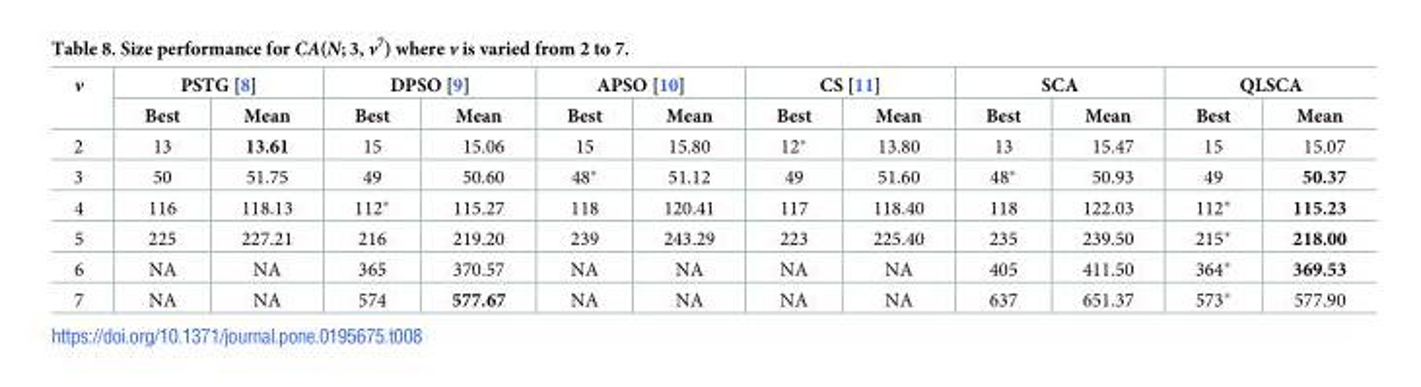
<table><thead><tr><td rowspan="2">v</td><td colspan="2">PSTG [8]</td><td colspan="2">DPSO [9]</td><td colspan="2">APSO [10]</td><td colspan="2">CS [11]</td><td colspan="2">SCA</td><td colspan="2">QLSCA</td></tr><tr><td>Best</td><td>Mean</td><td>Best</td><td>Mean</td><td>Best</td><td>Mean</td><td>Best</td><td>Mean</td><td>Best</td><td>Mean</td><td>Best</td><td>Mean</td></tr></thead><tbody><tr><td>2</td><td>13</td><td>13.61</td><td>15</td><td>15.06</td><td>15</td><td>15.80</td><td>12*</td><td>13.80</td><td>13</td><td>15.47</td><td>15</td><td>15.07</td></tr><tr><td>3</td><td>50</td><td>51.75</td><td>49</td><td>50.60</td><td>48*</td><td>51.12</td><td>49</td><td>51.60</td><td>48*</td><td>50.93</td><td>49</td><td>50.37</td></tr><tr><td>4</td><td>116</td><td>118.13</td><td>112*</td><td>115.27</td><td>118</td><td>120.41</td><td>117</td><td>118.40</td><td>118</td><td>122.03</td><td>112*</td><td>115.23</td></tr><tr><td>5</td><td>225</td><td>227.21</td><td>216</td><td>219.20</td><td>239</td><td>243.29</td><td>223</td><td>225.40</td><td>235</td><td>239.50</td><td>215*</td><td>218.00</td></tr><tr><td>6</td><td>NA</td><td>NA</td><td>365</td><td>370.57</td><td>NA</td><td>NA</td><td>NA</td><td>NA</td><td>405</td><td>411.50</td><td>364*</td><td>369.53</td></tr><tr><td>7</td><td>NA</td><td>NA</td><td>574</td><td>577.67</td><td>NA</td><td>NA</td><td>NA</td><td>NA</td><td>637</td><td>651.37</td><td>573*</td><td>577.90</td></tr></tbody></table>